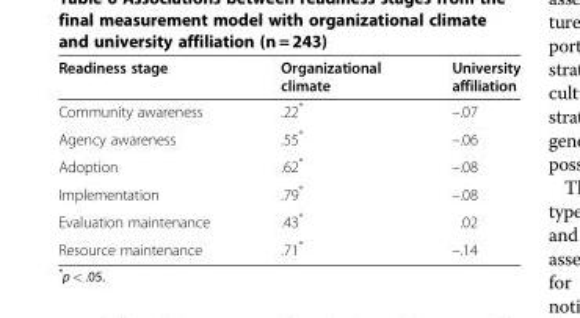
<table><thead><tr><td>Readiness stage</td><td>Organizational climate</td><td>University affiliation</td></tr></thead><tbody><tr><td>Community awareness</td><td>.22*</td><td>–.07</td></tr><tr><td>Agency awareness</td><td>.55*</td><td>–.06</td></tr><tr><td>Adoption</td><td>.62*</td><td>–.08</td></tr><tr><td>Implementation</td><td>.79*</td><td>–.08</td></tr><tr><td>Evaluation maintenance</td><td>.43*</td><td>.02</td></tr><tr><td>Resource maintenance</td><td>.71*</td><td>–.14</td></tr></tbody></table>